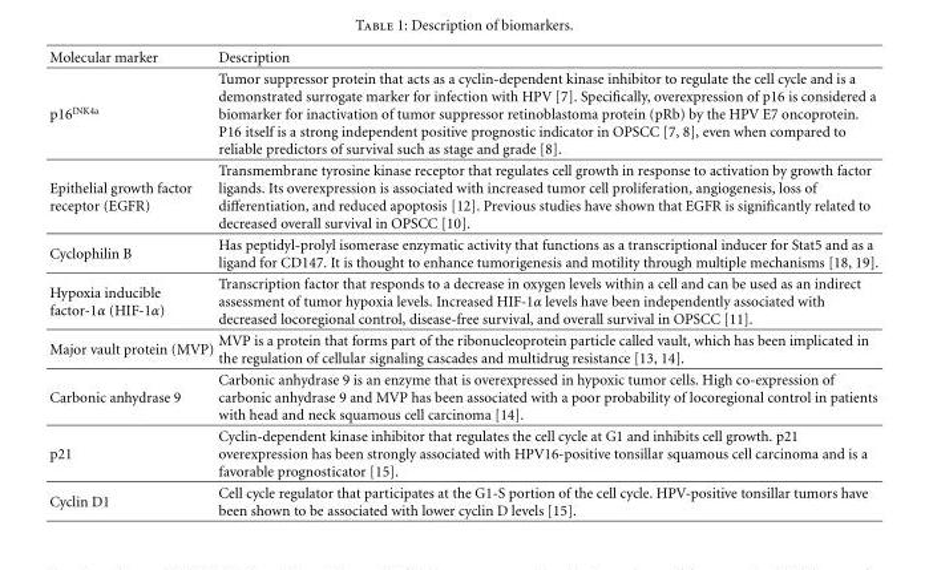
<table><thead><tr><td>Molecular marker</td><td>Description</td></tr></thead><tbody><tr><td>p16<sup>INK4a</sup></td><td>Tumor suppressor protein that acts as a cyclin-dependent kinase inhibitor to regulate the cell cycle and is a demonstrated surrogate marker for infection with HPV [7]. Specifically, overexpression of p16 is considered a biomarker for inactivation of tumor suppressor retinoblastoma protein (pRb) by the HPV E7 oncoprotein. P16 itself is a strong independent positive prognostic indicator in OPSCC [7, 8], even when compared to reliable predictors of survival such as stage and grade [8].</td></tr><tr><td>Epithelial growth factor receptor (EGFR)</td><td>Transmembrane tyrosine kinase receptor that regulates cell growth in response to activation by growth factor ligands. Its overexpression is associated with increased tumor cell proliferation, angiogenesis, loss of differentiation, and reduced apoptosis [12]. Previous studies have shown that EGFR is significantly related to decreased overall survival in OPSCC [10].</td></tr><tr><td>Cyclophilin B</td><td>Has peptidyl-prolyl isomerase enzymatic activity that functions as a transcriptional inducer for Stat5 and as a ligand for CD147. It is thought to enhance tumorigenesis and motility through multiple mechanisms [18, 19].</td></tr><tr><td>Hypoxia inducible factor-1α (HIF-1α)</td><td>Transcription factor that responds to a decrease in oxygen levels within a cell and can be used as an indirect assessment of tumor hypoxia levels. Increased HIF-1α levels have been independently associated with decreased locoregional control, disease-free survival, and overall survival in OPSCC [11].</td></tr><tr><td>Major vault protein (MVP)</td><td>MVP is a protein that forms part of the ribonucleoprotein particle called vault, which has been implicated in the regulation of cellular signaling cascades and multidrug resistance [13, 14].</td></tr><tr><td>Carbonic anhydrase 9</td><td>Carbonic anhydrase 9 is an enzyme that is overexpressed in hypoxic tumor cells. High co-expression of carbonic anhydrase 9 and MVP has been associated with a poor probability of locoregional control in patients with head and neck squamous cell carcinoma [14].</td></tr><tr><td>p21</td><td>Cyclin-dependent kinase inhibitor that regulates the cell cycle at G1 and inhibits cell growth. p21 overexpression has been strongly associated with HPV16-positive tonsillar squamous cell carcinoma and is a favorable prognosticator [15].</td></tr><tr><td>Cyclin D1</td><td>Cell cycle regulator that participates at the G1-S portion of the cell cycle. HPV-positive tonsillar tumors have been shown to be associated with lower cyclin D levels [15].</td></tr></tbody></table>